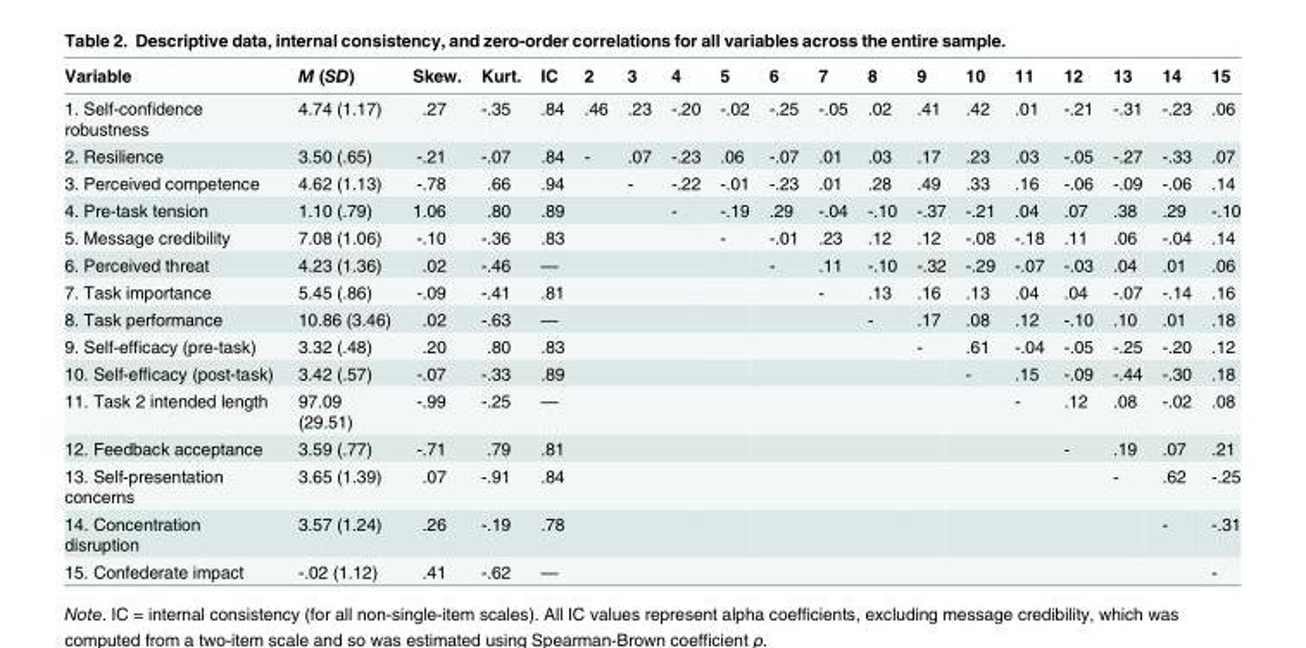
<table><thead><tr><td>Variable</td><td>M (SD)</td><td>Skew.</td><td>Kurt.</td><td>IC</td><td>2</td><td>3</td><td>4</td><td>5</td><td>6</td><td>7</td><td>8</td><td>9</td><td>10</td><td>11</td><td>12</td><td>13</td><td>14</td><td>15</td></tr></thead><tbody><tr><td>1. Self-confidence robustness</td><td>4.74 (1.17)</td><td>.27</td><td>-.35</td><td>.84</td><td>.46</td><td>.23</td><td>-.20</td><td>-.02</td><td>-.25</td><td>-.05</td><td>.02</td><td>.41</td><td>.42</td><td>.01</td><td>-.21</td><td>-.31</td><td>-.23</td><td>.06</td></tr><tr><td>2. Resilience</td><td>3.50 (.65)</td><td>-.21</td><td>-.07</td><td>.84</td><td>-</td><td>.07</td><td>-.23</td><td>.06</td><td>-.07</td><td>.01</td><td>.03</td><td>.17</td><td>.23</td><td>.03</td><td>-.05</td><td>-.27</td><td>-.33</td><td>.07</td></tr><tr><td>3. Perceived competence</td><td>4.62 (1.13)</td><td>-.78</td><td>.66</td><td>.94</td><td></td><td>-</td><td>-.22</td><td>-.01</td><td>-.23</td><td>.01</td><td>.28</td><td>.49</td><td>.33</td><td>.16</td><td>-.06</td><td>-.09</td><td>-.06</td><td>.14</td></tr><tr><td>4. Pre-task tension</td><td>1.10 (.79)</td><td>1.06</td><td>.80</td><td>.89</td><td></td><td></td><td>-</td><td>-.19</td><td>.29</td><td>-.04</td><td>-.10</td><td>-.37</td><td>-.21</td><td>.04</td><td>.07</td><td>.38</td><td>.29</td><td>-.10</td></tr><tr><td>5. Message credibility</td><td>7.08 (1.06)</td><td>-.10</td><td>-.36</td><td>.83</td><td></td><td></td><td></td><td>-</td><td>-.01</td><td>.23</td><td>.12</td><td>.12</td><td>-.08</td><td>-.18</td><td>.11</td><td>.06</td><td>-.04</td><td>.14</td></tr><tr><td>6. Perceived threat</td><td>4.23 (1.36)</td><td>.02</td><td>-.46</td><td>—</td><td></td><td></td><td></td><td></td><td>-</td><td>.11</td><td>-.10</td><td>-.32</td><td>-.29</td><td>-.07</td><td>-.03</td><td>.04</td><td>.01</td><td>.06</td></tr><tr><td>7. Task importance</td><td>5.45 (.86)</td><td>-.09</td><td>-.41</td><td>.81</td><td></td><td></td><td></td><td></td><td></td><td>-</td><td>.13</td><td>.16</td><td>.13</td><td>.04</td><td>.04</td><td>-.07</td><td>-.14</td><td>.16</td></tr><tr><td>8. Task performance</td><td>10.86 (3.46)</td><td>.02</td><td>-.63</td><td>—</td><td></td><td></td><td></td><td></td><td></td><td></td><td>-</td><td>.17</td><td>.08</td><td>.12</td><td>-.10</td><td>.10</td><td>.01</td><td>.18</td></tr><tr><td>9. Self-efficacy (pre-task)</td><td>3.32 (.48)</td><td>.20</td><td>.80</td><td>.83</td><td></td><td></td><td></td><td></td><td></td><td></td><td></td><td>-</td><td>.61</td><td>-.04</td><td>-.05</td><td>-.25</td><td>-.20</td><td>.12</td></tr><tr><td>10. Self-efficacy (post-task)</td><td>3.42 (.57)</td><td>-.07</td><td>-.33</td><td>.89</td><td></td><td></td><td></td><td></td><td></td><td></td><td></td><td></td><td>-</td><td>.15</td><td>-.09</td><td>-.44</td><td>-.30</td><td>.18</td></tr><tr><td>11. Task 2 intended length</td><td>97.09 (29.51)</td><td>-.99</td><td>-.25</td><td>—</td><td></td><td></td><td></td><td></td><td></td><td></td><td></td><td></td><td></td><td>-</td><td>.12</td><td>.08</td><td>-.02</td><td>.08</td></tr><tr><td>12. Feedback acceptance</td><td>3.59 (.77)</td><td>-.71</td><td>.79</td><td>.81</td><td></td><td></td><td></td><td></td><td></td><td></td><td></td><td></td><td></td><td></td><td>-</td><td>.19</td><td>.07</td><td>.21</td></tr><tr><td>13. Self-presentation concerns</td><td>3.65 (1.39)</td><td>.07</td><td>-.91</td><td>.84</td><td></td><td></td><td></td><td></td><td></td><td></td><td></td><td></td><td></td><td></td><td></td><td>-</td><td>.62</td><td>-.25</td></tr><tr><td>14. Concentration disruption</td><td>3.57 (1.24)</td><td>.26</td><td>-.19</td><td>.78</td><td></td><td></td><td></td><td></td><td></td><td></td><td></td><td></td><td></td><td></td><td></td><td></td><td>-</td><td>-.31</td></tr><tr><td>15. Confederate impact</td><td>-.02 (1.12)</td><td>.41</td><td>-.62</td><td>—</td><td></td><td></td><td></td><td></td><td></td><td></td><td></td><td></td><td></td><td></td><td></td><td></td><td></td><td>-</td></tr></tbody></table>